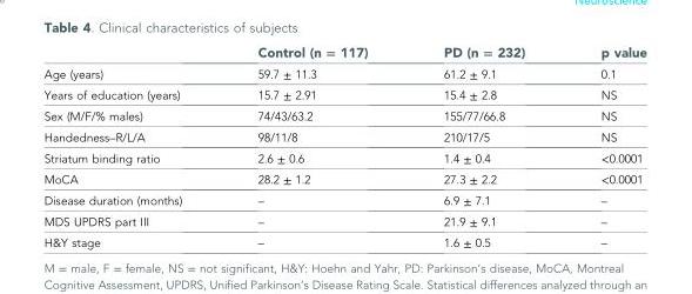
<table><thead><tr><td></td><td>Control (n = 117)</td><td>PD (n = 232)</td><td>p value</td></tr></thead><tbody><tr><td>Age (years)</td><td>59.7 ± 11.3</td><td>61.2 ± 9.1</td><td>0.1</td></tr><tr><td>Years of education (years)</td><td>15.7 ± 2.91</td><td>15.4 ± 2.8</td><td>NS</td></tr><tr><td>Sex (M/F/% males)</td><td>74/43/63.2</td><td>155/77/66.8</td><td>NS</td></tr><tr><td>Handedness–R/L/A</td><td>98/11/8</td><td>210/17/5</td><td>NS</td></tr><tr><td>Striatum binding ratio</td><td>2.6 ± 0.6</td><td>1.4 ± 0.4</td><td>&lt;0.0001</td></tr><tr><td>MoCA</td><td>28.2 ± 1.2</td><td>27.3 ± 2.2</td><td>&lt;0.0001</td></tr><tr><td>Disease duration (months)</td><td>–</td><td>6.9 ± 7.1</td><td>–</td></tr><tr><td>MDS UPDRS part III</td><td>–</td><td>21.9 ± 9.1</td><td>–</td></tr><tr><td>H&amp;Y stage</td><td>–</td><td>1.6 ± 0.5</td><td>–</td></tr></tbody></table>